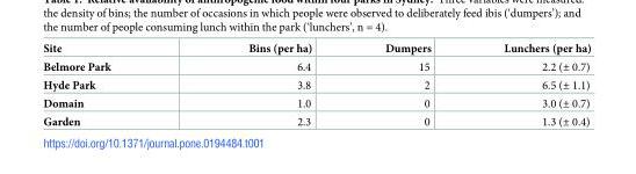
<table><thead><tr><td>Site</td><td>Bins (per ha)</td><td>Dumpers</td><td>Lunchers (per ha)</td></tr></thead><tbody><tr><td>Belmore Park</td><td>6.4</td><td>15</td><td>2.2 (± 0.7)</td></tr><tr><td>Hyde Park</td><td>3.8</td><td>2</td><td>6.5 (± 1.1)</td></tr><tr><td>Domain</td><td>1.0</td><td>0</td><td>3.0 (± 0.7)</td></tr><tr><td>Garden</td><td>2.3</td><td>0</td><td>1.3 (± 0.4)</td></tr></tbody></table>